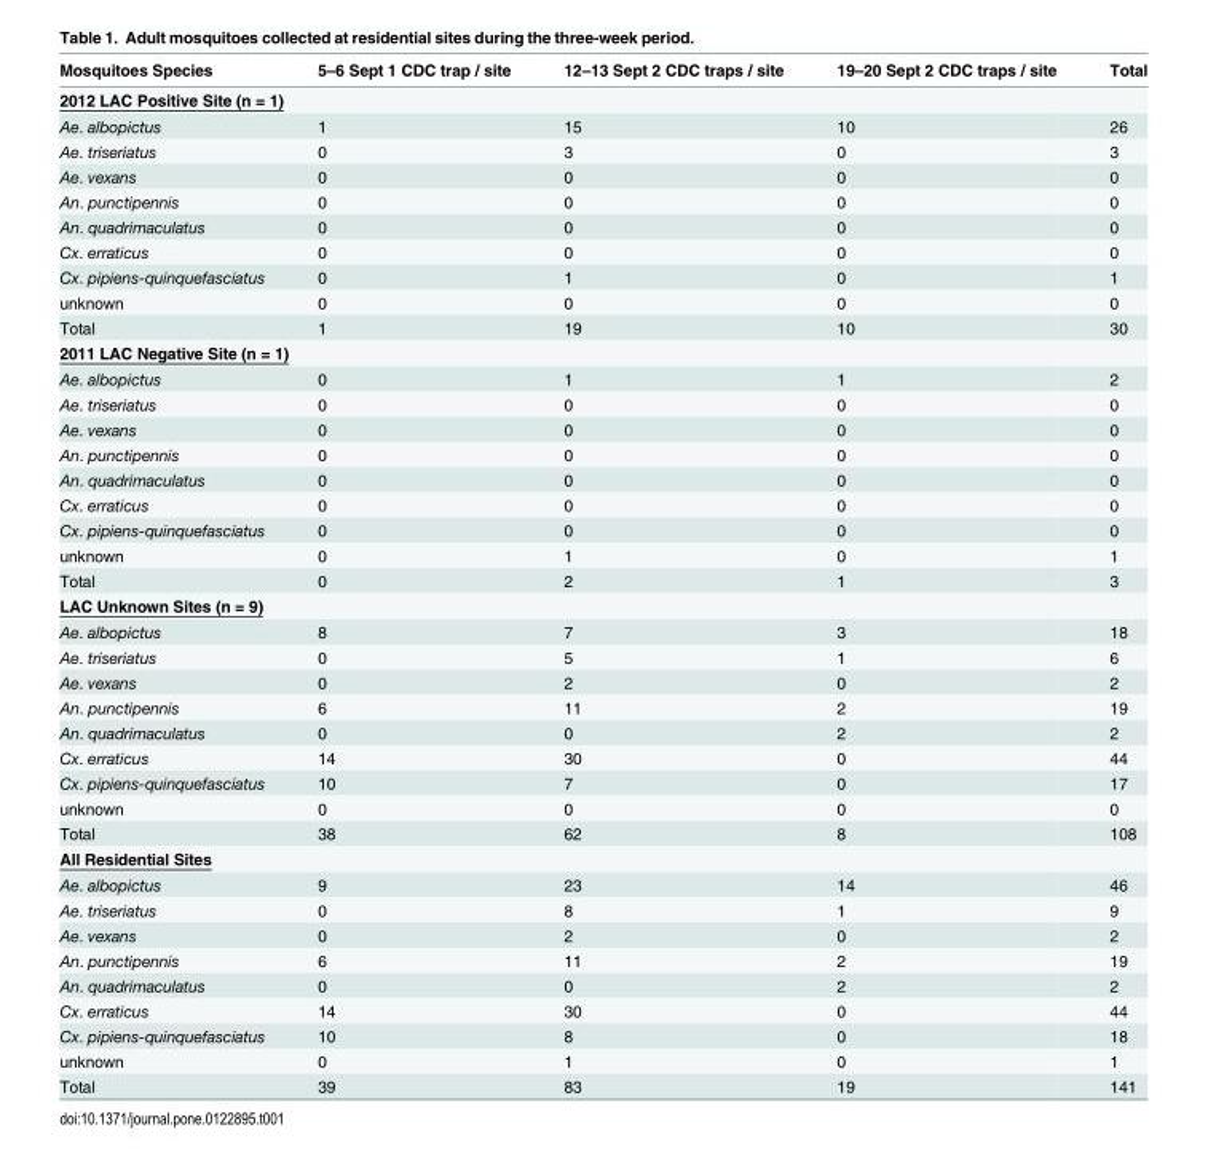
<table><thead><tr><td>Mosquitoes Species</td><td>5–6 Sept 1 CDC trap / site</td><td>12–13 Sept 2 CDC traps / site</td><td>19–20 Sept 2 CDC traps / site</td><td>Total</td></tr></thead><tbody><tr><td colspan="5">2012 LAC Positive Site (n = 1)</td></tr><tr><td>Ae. albopictus</td><td>1</td><td>15</td><td>10</td><td>26</td></tr><tr><td>Ae. triseriatus</td><td>0</td><td>3</td><td>0</td><td>3</td></tr><tr><td>Ae. vexans</td><td>0</td><td>0</td><td>0</td><td>0</td></tr><tr><td>An. punctipennis</td><td>0</td><td>0</td><td>0</td><td>0</td></tr><tr><td>An. quadrimaculatus</td><td>0</td><td>0</td><td>0</td><td>0</td></tr><tr><td>Cx. erraticus</td><td>0</td><td>0</td><td>0</td><td>0</td></tr><tr><td>Cx. pipiens-quinquefasciatus</td><td>0</td><td>1</td><td>0</td><td>1</td></tr><tr><td>unknown</td><td>0</td><td>0</td><td>0</td><td>0</td></tr><tr><td>Total</td><td>1</td><td>19</td><td>10</td><td>30</td></tr><tr><td colspan="5">2011 LAC Negative Site (n = 1)</td></tr><tr><td>Ae. albopictus</td><td>0</td><td>1</td><td>1</td><td>2</td></tr><tr><td>Ae. triseriatus</td><td>0</td><td>0</td><td>0</td><td>0</td></tr><tr><td>Ae. vexans</td><td>0</td><td>0</td><td>0</td><td>0</td></tr><tr><td>An. punctipennis</td><td>0</td><td>0</td><td>0</td><td>0</td></tr><tr><td>An. quadrimaculatus</td><td>0</td><td>0</td><td>0</td><td>0</td></tr><tr><td>Cx. erraticus</td><td>0</td><td>0</td><td>0</td><td>0</td></tr><tr><td>Cx. pipiens-quinquefasciatus</td><td>0</td><td>0</td><td>0</td><td>0</td></tr><tr><td>unknown</td><td>0</td><td>1</td><td>0</td><td>1</td></tr><tr><td>Total</td><td>0</td><td>2</td><td>1</td><td>3</td></tr><tr><td colspan="5">LAC Unknown Sites (n = 9)</td></tr><tr><td>Ae. albopictus</td><td>8</td><td>7</td><td>3</td><td>18</td></tr><tr><td>Ae. triseriatus</td><td>0</td><td>5</td><td>1</td><td>6</td></tr><tr><td>Ae. vexans</td><td>0</td><td>2</td><td>0</td><td>2</td></tr><tr><td>An. punctipennis</td><td>6</td><td>11</td><td>2</td><td>19</td></tr><tr><td>An. quadrimaculatus</td><td>0</td><td>0</td><td>2</td><td>2</td></tr><tr><td>Cx. erraticus</td><td>14</td><td>30</td><td>0</td><td>44</td></tr><tr><td>Cx. pipiens-quinquefasciatus</td><td>10</td><td>7</td><td>0</td><td>17</td></tr><tr><td>unknown</td><td>0</td><td>0</td><td>0</td><td>0</td></tr><tr><td>Total</td><td>38</td><td>62</td><td>8</td><td>108</td></tr><tr><td colspan="5">All Residential Sites</td></tr><tr><td>Ae. albopictus</td><td>9</td><td>23</td><td>14</td><td>46</td></tr><tr><td>Ae. triseriatus</td><td>0</td><td>8</td><td>1</td><td>9</td></tr><tr><td>Ae. vexans</td><td>0</td><td>2</td><td>0</td><td>2</td></tr><tr><td>An. punctipennis</td><td>6</td><td>11</td><td>2</td><td>19</td></tr><tr><td>An. quadrimaculatus</td><td>0</td><td>0</td><td>2</td><td>2</td></tr><tr><td>Cx. erraticus</td><td>14</td><td>30</td><td>0</td><td>44</td></tr><tr><td>Cx. pipiens-quinquefasciatus</td><td>10</td><td>8</td><td>0</td><td>18</td></tr><tr><td>unknown</td><td>0</td><td>1</td><td>0</td><td>1</td></tr><tr><td>Total</td><td>39</td><td>83</td><td>19</td><td>141</td></tr></tbody></table>